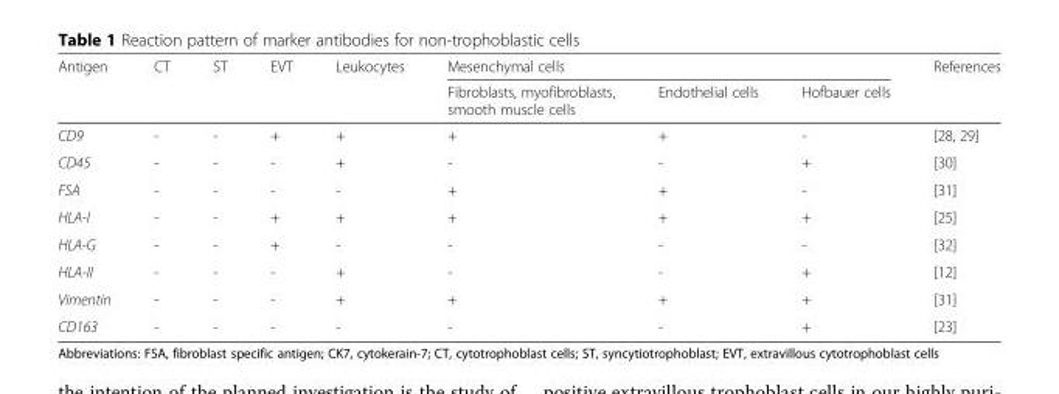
<table><thead><tr><td rowspan="2">Antigen</td><td rowspan="2">CT</td><td rowspan="2">ST</td><td rowspan="2">EVT</td><td rowspan="2">Leukocytes</td><td colspan="3">Mesenchymal cells</td><td rowspan="2">References</td></tr><tr><td>Fibroblasts, myofibroblasts, smooth muscle cells</td><td>Endothelial cells</td><td>Hofbauer cells</td></tr></thead><tbody><tr><td>CD9</td><td>-</td><td>-</td><td>+</td><td>+</td><td>+</td><td>+</td><td>-</td><td>[28, 29]</td></tr><tr><td>CD45</td><td>-</td><td>-</td><td>-</td><td>+</td><td>-</td><td>-</td><td>+</td><td>[30]</td></tr><tr><td>FSA</td><td>-</td><td>-</td><td>-</td><td>-</td><td>+</td><td>+</td><td>-</td><td>[31]</td></tr><tr><td>HLA-I</td><td>-</td><td>-</td><td>+</td><td>+</td><td>+</td><td>+</td><td>+</td><td>[25]</td></tr><tr><td>HLA-G</td><td>-</td><td>-</td><td>+</td><td>-</td><td>-</td><td>-</td><td>-</td><td>[32]</td></tr><tr><td>HLA-II</td><td>-</td><td>-</td><td>-</td><td>+</td><td>-</td><td>-</td><td>+</td><td>[12]</td></tr><tr><td>Vimentin</td><td>-</td><td>-</td><td>-</td><td>+</td><td>+</td><td>+</td><td>+</td><td>[31]</td></tr><tr><td>CD163</td><td>-</td><td>-</td><td>-</td><td>-</td><td>-</td><td>-</td><td>+</td><td>[23]</td></tr></tbody></table>